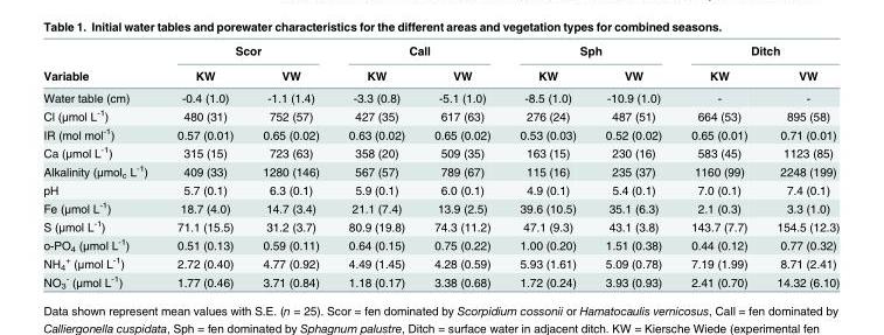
<table><thead><tr><td rowspan="2">Variable</td><td colspan="2">Scor</td><td colspan="2">Call</td><td colspan="2">Sph</td><td colspan="2">Ditch</td></tr><tr><td>KW</td><td>VW</td><td>KW</td><td>VW</td><td>KW</td><td>VW</td><td>KW</td><td>VW</td></tr></thead><tbody><tr><td>Water table (cm)</td><td>-0.4 (1.0)</td><td>-1.1 (1.4)</td><td>-3.3 (0.8)</td><td>-5.1 (1.0)</td><td>-8.5 (1.0)</td><td>-10.9 (1.0)</td><td>-</td><td>-</td></tr><tr><td>Cl (μmol L<sup>-1</sup>)</td><td>480 (31)</td><td>752 (57)</td><td>427 (35)</td><td>617 (63)</td><td>276 (24)</td><td>487 (51)</td><td>664 (53)</td><td>895 (58)</td></tr><tr><td>IR (mol mol<sup>-1</sup>)</td><td>0.57 (0.01)</td><td>0.65 (0.02)</td><td>0.63 (0.02)</td><td>0.65 (0.02)</td><td>0.53 (0.03)</td><td>0.52 (0.02)</td><td>0.65 (0.01)</td><td>0.71 (0.01)</td></tr><tr><td>Ca (μmol L<sup>-1</sup>)</td><td>315 (15)</td><td>723 (63)</td><td>358 (20)</td><td>509 (35)</td><td>163 (15)</td><td>230 (16)</td><td>583 (45)</td><td>1123 (85)</td></tr><tr><td>Alkalinity (μmol<sub>c</sub> L<sup>-1</sup>)</td><td>409 (33)</td><td>1280 (146)</td><td>567 (57)</td><td>789 (67)</td><td>115 (16)</td><td>235 (37)</td><td>1160 (99)</td><td>2248 (199)</td></tr><tr><td>pH</td><td>5.7 (0.1)</td><td>6.3 (0.1)</td><td>5.9 (0.1)</td><td>6.0 (0.1)</td><td>4.9 (0.1)</td><td>5.4 (0.1)</td><td>7.0 (0.1)</td><td>7.4 (0.1)</td></tr><tr><td>Fe (μmol L<sup>-1</sup>)</td><td>18.7 (4.0)</td><td>14.7 (3.4)</td><td>21.1 (7.4)</td><td>13.9 (2.5)</td><td>39.6 (10.5)</td><td>35.1 (6.3)</td><td>2.1 (0.3)</td><td>3.3 (1.0)</td></tr><tr><td>S (μmol L<sup>-1</sup>)</td><td>71.1 (15.5)</td><td>31.2 (3.7)</td><td>80.9 (19.8)</td><td>74.3 (11.2)</td><td>47.1 (9.3)</td><td>43.1 (3.8)</td><td>143.7 (7.7)</td><td>154.5 (12.3)</td></tr><tr><td>o-PO<sub>4</sub> (μmol L<sup>-1</sup>)</td><td>0.51 (0.13)</td><td>0.59 (0.11)</td><td>0.64 (0.15)</td><td>0.75 (0.22)</td><td>1.00 (0.20)</td><td>1.51 (0.38)</td><td>0.44 (0.12)</td><td>0.77 (0.32)</td></tr><tr><td>NH<sub>4</sub> <sup>+</sup> (μmol L<sup>-1</sup>)</td><td>2.72 (0.40)</td><td>4.77 (0.92)</td><td>4.49 (1.45)</td><td>4.28 (0.59)</td><td>5.93 (1.61)</td><td>5.09 (0.78)</td><td>7.19 (1.99)</td><td>8.71 (2.41)</td></tr><tr><td>NO<sub>3</sub> <sup>-</sup> (μmol L<sup>-1</sup>)</td><td>1.77 (0.46)</td><td>3.71 (0.84)</td><td>1.18 (0.17)</td><td>3.38 (0.68)</td><td>1.72 (0.24)</td><td>3.93 (0.93)</td><td>2.41 (0.70)</td><td>14.32 (6.10)</td></tr></tbody></table>